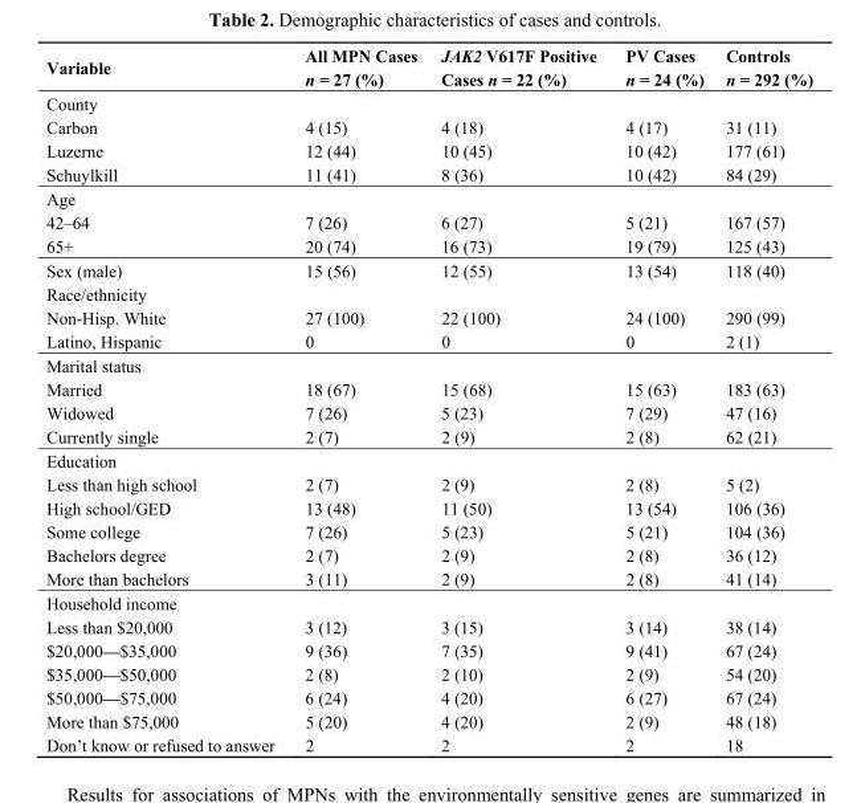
<table><thead><tr><td>Variable</td><td>All MPN Cases n = 27 (%)</td><td>JAK2 V617F Positive Cases n = 22 (%)</td><td>PV Cases n = 24 (%)</td><td>Controls n = 292 (%)</td></tr></thead><tbody><tr><td colspan="5">County</td></tr><tr><td>Carbon</td><td>4 (15)</td><td>4 (18)</td><td>4 (17)</td><td>31 (11)</td></tr><tr><td>Luzerne</td><td>12 (44)</td><td>10 (45)</td><td>10 (42)</td><td>177 (61)</td></tr><tr><td>Schuylkill</td><td>11 (41)</td><td>8 (36)</td><td>10 (42)</td><td>84 (29)</td></tr><tr><td colspan="5">Age</td></tr><tr><td>42–64</td><td>7 (26)</td><td>6 (27)</td><td>5 (21)</td><td>167 (57)</td></tr><tr><td>65+</td><td>20 (74)</td><td>16 (73)</td><td>19 (79)</td><td>125 (43)</td></tr><tr><td>Sex (male)</td><td>15 (56)</td><td>12 (55)</td><td>13 (54)</td><td>118 (40)</td></tr><tr><td colspan="5">Race/ethnicity</td></tr><tr><td>Non-Hisp. White</td><td>27 (100)</td><td>22 (100)</td><td>24 (100)</td><td>290 (99)</td></tr><tr><td>Latino, Hispanic</td><td>0</td><td>0</td><td>0</td><td>2 (1)</td></tr><tr><td colspan="5">Marital status</td></tr><tr><td>Married</td><td>18 (67)</td><td>15 (68)</td><td>15 (63)</td><td>183 (63)</td></tr><tr><td>Widowed</td><td>7 (26)</td><td>5 (23)</td><td>7 (29)</td><td>47 (16)</td></tr><tr><td>Currently single</td><td>2 (7)</td><td>2 (9)</td><td>2 (8)</td><td>62 (21)</td></tr><tr><td colspan="5">Education</td></tr><tr><td>Less than high school</td><td>2 (7)</td><td>2 (9)</td><td>2 (8)</td><td>5 (2)</td></tr><tr><td>High school/GED</td><td>13 (48)</td><td>11 (50)</td><td>13 (54)</td><td>106 (36)</td></tr><tr><td>Some college</td><td>7 (26)</td><td>5 (23)</td><td>5 (21)</td><td>104 (36)</td></tr><tr><td>Bachelors degree</td><td>2 (7)</td><td>2 (9)</td><td>2 (8)</td><td>36 (12)</td></tr><tr><td>More than bachelors</td><td>3 (11)</td><td>2 (9)</td><td>2 (8)</td><td>41 (14)</td></tr><tr><td colspan="5">Household income</td></tr><tr><td>Less than $20,000</td><td>3 (12)</td><td>3 (15)</td><td>3 (14)</td><td>38 (14)</td></tr><tr><td>$20,000—$35,000</td><td>9 (36)</td><td>7 (35)</td><td>9 (41)</td><td>67 (24)</td></tr><tr><td>$35,000—$50,000</td><td>2 (8)</td><td>2 (10)</td><td>2 (9)</td><td>54 (20)</td></tr><tr><td>$50,000—$75,000</td><td>6 (24)</td><td>4 (20)</td><td>6 (27)</td><td>67 (24)</td></tr><tr><td>More than $75,000</td><td>5 (20)</td><td>4 (20)</td><td>2 (9)</td><td>48 (18)</td></tr><tr><td>Don’t know or refused to answer</td><td>2</td><td>2</td><td>2</td><td>18</td></tr></tbody></table>